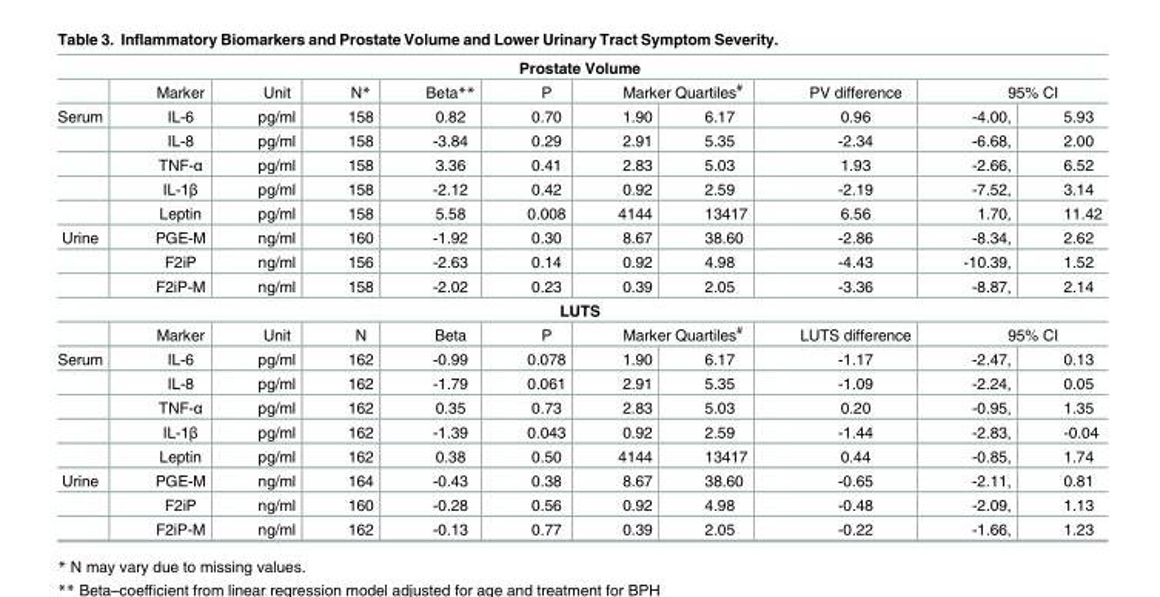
<table><tbody><tr><td colspan="11">Prostate Volume</td></tr><tr><td></td><td>Marker</td><td>Unit</td><td>N*</td><td>Beta**</td><td>P</td><td colspan="2">Marker Quartiles<sup>#</sup></td><td>PV difference</td><td colspan="2">95% CI</td></tr><tr><td rowspan="5">Serum</td><td>IL-6</td><td>pg/ml</td><td>158</td><td>0.82</td><td>0.70</td><td>1.90</td><td>6.17</td><td>0.96</td><td>-4.00,</td><td>5.93</td></tr><tr><td>IL-8</td><td>pg/ml</td><td>158</td><td>-3.84</td><td>0.29</td><td>2.91</td><td>5.35</td><td>-2.34</td><td>-6.68,</td><td>2.00</td></tr><tr><td>TNF-α</td><td>pg/ml</td><td>158</td><td>3.36</td><td>0.41</td><td>2.83</td><td>5.03</td><td>1.93</td><td>-2.66,</td><td>6.52</td></tr><tr><td>IL-1β</td><td>pg/ml</td><td>158</td><td>-2.12</td><td>0.42</td><td>0.92</td><td>2.59</td><td>-2.19</td><td>-7.52,</td><td>3.14</td></tr><tr><td>Leptin</td><td>pg/ml</td><td>158</td><td>5.58</td><td>0.008</td><td>4144</td><td>13417</td><td>6.56</td><td>1.70,</td><td>11.42</td></tr><tr><td rowspan="3">Urine</td><td>PGE-M</td><td>ng/ml</td><td>160</td><td>-1.92</td><td>0.30</td><td>8.67</td><td>38.60</td><td>-2.86</td><td>-8.34,</td><td>2.62</td></tr><tr><td>F2iP</td><td>ng/ml</td><td>156</td><td>-2.63</td><td>0.14</td><td>0.92</td><td>4.98</td><td>-4.43</td><td>-10.39,</td><td>1.52</td></tr><tr><td>F2iP-M</td><td>ng/ml</td><td>158</td><td>-2.02</td><td>0.23</td><td>0.39</td><td>2.05</td><td>-3.36</td><td>-8.87,</td><td>2.14</td></tr><tr><td colspan="11">LUTS</td></tr><tr><td></td><td>Marker</td><td>Unit</td><td>N</td><td>Beta</td><td>P</td><td colspan="2">Marker Quartiles<sup>#</sup></td><td>LUTS difference</td><td colspan="2">95% CI</td></tr><tr><td rowspan="5">Serum</td><td>IL-6</td><td>pg/ml</td><td>162</td><td>-0.99</td><td>0.078</td><td>1.90</td><td>6.17</td><td>-1.17</td><td>-2.47,</td><td>0.13</td></tr><tr><td>IL-8</td><td>pg/ml</td><td>162</td><td>-1.79</td><td>0.061</td><td>2.91</td><td>5.35</td><td>-1.09</td><td>-2.24,</td><td>0.05</td></tr><tr><td>TNF-α</td><td>pg/ml</td><td>162</td><td>0.35</td><td>0.73</td><td>2.83</td><td>5.03</td><td>0.20</td><td>-0.95,</td><td>1.35</td></tr><tr><td>IL-1β</td><td>pg/ml</td><td>162</td><td>-1.39</td><td>0.043</td><td>0.92</td><td>2.59</td><td>-1.44</td><td>-2.83,</td><td>-0.04</td></tr><tr><td>Leptin</td><td>pg/ml</td><td>162</td><td>0.38</td><td>0.50</td><td>4144</td><td>13417</td><td>0.44</td><td>-0.85,</td><td>1.74</td></tr><tr><td rowspan="3">Urine</td><td>PGE-M</td><td>ng/ml</td><td>164</td><td>-0.43</td><td>0.38</td><td>8.67</td><td>38.60</td><td>-0.65</td><td>-2.11,</td><td>0.81</td></tr><tr><td>F2iP</td><td>ng/ml</td><td>160</td><td>-0.28</td><td>0.56</td><td>0.92</td><td>4.98</td><td>-0.48</td><td>-2.09,</td><td>1.13</td></tr><tr><td>F2iP-M</td><td>ng/ml</td><td>162</td><td>-0.13</td><td>0.77</td><td>0.39</td><td>2.05</td><td>-0.22</td><td>-1.66,</td><td>1.23</td></tr></tbody></table>